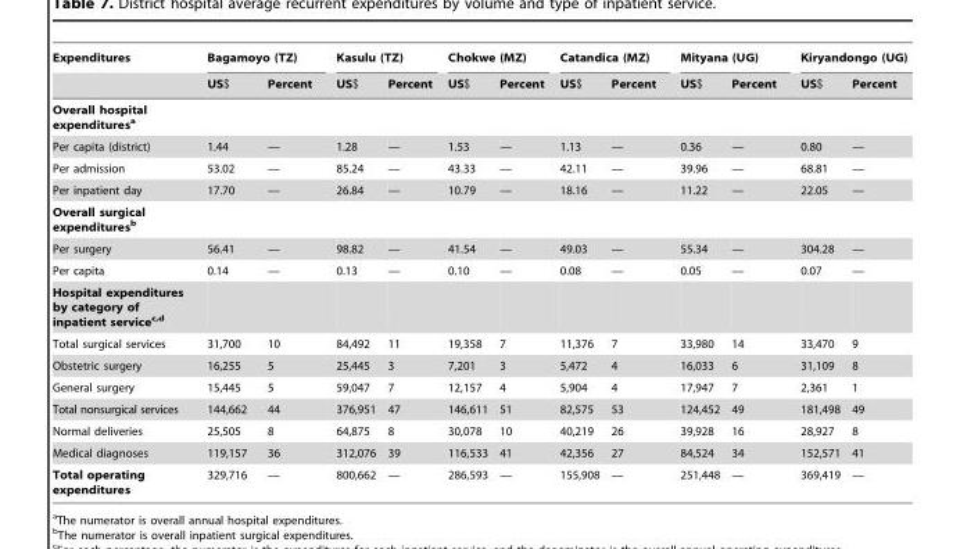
<table><thead><tr><td rowspan="2">Expenditures</td><td colspan="2">Bagamoyo (TZ)</td><td colspan="2">Kasulu (TZ)</td><td colspan="2">Chokwe (MZ)</td><td colspan="2">Catandica (MZ)</td><td colspan="2">Mityana (UG)</td><td colspan="2">Kiryandongo (UG)</td></tr><tr><td>US$</td><td>Percent</td><td>US$</td><td>Percent</td><td>US$</td><td>Percent</td><td>US$</td><td>Percent</td><td>US$</td><td>Percent</td><td>US$</td><td>Percent</td></tr></thead><tbody><tr><td colspan="13">Overall hospital expendituresa</td></tr><tr><td>Per capita (district)</td><td>1.44</td><td>—</td><td>1.28</td><td>—</td><td>1.53</td><td>—</td><td>1.13</td><td>—</td><td>0.36</td><td>—</td><td>0.80</td><td>—</td></tr><tr><td>Per admission</td><td>53.02</td><td>—</td><td>85.24</td><td>—</td><td>43.33</td><td>—</td><td>42.11</td><td>—</td><td>39.96</td><td>—</td><td>68.81</td><td>—</td></tr><tr><td>Per inpatient day</td><td>17.70</td><td>—</td><td>26.84</td><td>—</td><td>10.79</td><td>—</td><td>18.16</td><td>—</td><td>11.22</td><td>—</td><td>22.05</td><td>—</td></tr><tr><td colspan="13">Overall surgical expendituresb</td></tr><tr><td>Per surgery</td><td>56.41</td><td>—</td><td>98.82</td><td>—</td><td>41.54</td><td>—</td><td>49.03</td><td>—</td><td>55.34</td><td>—</td><td>304.28</td><td>—</td></tr><tr><td>Per capita</td><td>0.14</td><td>—</td><td>0.13</td><td>—</td><td>0.10</td><td>—</td><td>0.08</td><td>—</td><td>0.05</td><td>—</td><td>0.07</td><td>—</td></tr><tr><td colspan="13">Hospital expenditures by category of inpatient servicec,d</td></tr><tr><td>Total surgical services</td><td>31,700</td><td>10</td><td>84,492</td><td>11</td><td>19,358</td><td>7</td><td>11,376</td><td>7</td><td>33,980</td><td>14</td><td>33,470</td><td>9</td></tr><tr><td>Obstetric surgery</td><td>16,255</td><td>5</td><td>25,445</td><td>3</td><td>7,201</td><td>3</td><td>5,472</td><td>4</td><td>16,033</td><td>6</td><td>31,109</td><td>8</td></tr><tr><td>General surgery</td><td>15,445</td><td>5</td><td>59,047</td><td>7</td><td>12,157</td><td>4</td><td>5,904</td><td>4</td><td>17,947</td><td>7</td><td>2,361</td><td>1</td></tr><tr><td>Total nonsurgical services</td><td>144,662</td><td>44</td><td>376,951</td><td>47</td><td>146,611</td><td>51</td><td>82,575</td><td>53</td><td>124,452</td><td>49</td><td>181,498</td><td>49</td></tr><tr><td>Normal deliveries</td><td>25,505</td><td>8</td><td>64,875</td><td>8</td><td>30,078</td><td>10</td><td>40,219</td><td>26</td><td>39,928</td><td>16</td><td>28,927</td><td>8</td></tr><tr><td>Medical diagnoses</td><td>119,157</td><td>36</td><td>312,076</td><td>39</td><td>116,533</td><td>41</td><td>42,356</td><td>27</td><td>84,524</td><td>34</td><td>152,571</td><td>41</td></tr><tr><td>Total operating expenditures</td><td>329,716</td><td>—</td><td>800,662</td><td>—</td><td>286,593</td><td>—</td><td>155,908</td><td>—</td><td>251,448</td><td>—</td><td>369,419</td><td>—</td></tr></tbody></table>